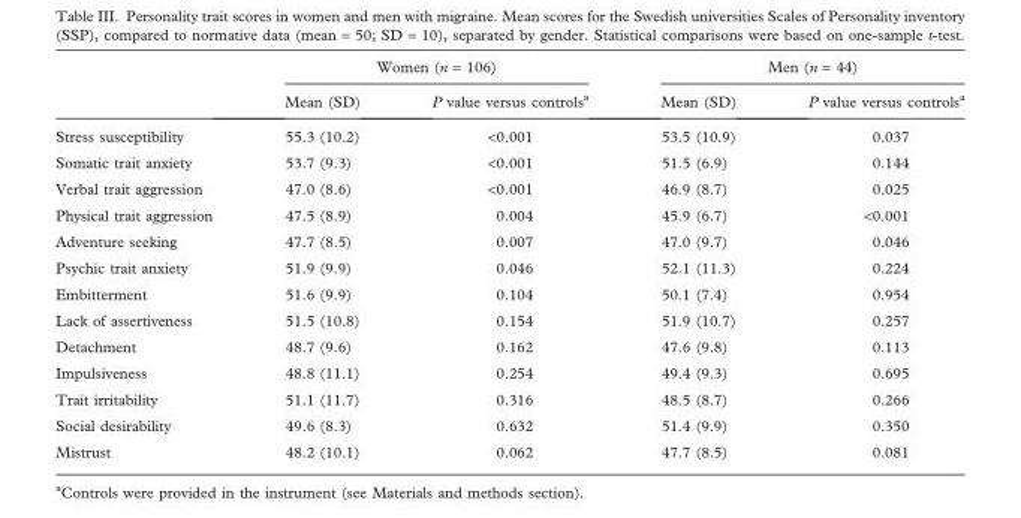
<table><thead><tr><td rowspan="2"></td><td colspan="2">Women (n = 106)</td><td colspan="2">Men (n = 44)</td></tr><tr><td>Mean (SD)</td><td>P value versus controls<sup>a</sup></td><td>Mean (SD)</td><td>P value versus controls<sup>a</sup></td></tr></thead><tbody><tr><td>Stress susceptibility</td><td>55.3 (10.2)</td><td>&lt;0.001</td><td>53.5 (10.9)</td><td>0.037</td></tr><tr><td>Somatic trait anxiety</td><td>53.7 (9.3)</td><td>&lt;0.001</td><td>51.5 (6.9)</td><td>0.144</td></tr><tr><td>Verbal trait aggression</td><td>47.0 (8.6)</td><td>&lt;0.001</td><td>46.9 (8.7)</td><td>0.025</td></tr><tr><td>Physical trait aggression</td><td>47.5 (8.9)</td><td>0.004</td><td>45.9 (6.7)</td><td>&lt;0.001</td></tr><tr><td>Adventure seeking</td><td>47.7 (8.5)</td><td>0.007</td><td>47.0 (9.7)</td><td>0.046</td></tr><tr><td>Psychic trait anxiety</td><td>51.9 (9.9)</td><td>0.046</td><td>52.1 (11.3)</td><td>0.224</td></tr><tr><td>Embitterment</td><td>51.6 (9.9)</td><td>0.104</td><td>50.1 (7.4)</td><td>0.954</td></tr><tr><td>Lack of assertiveness</td><td>51.5 (10.8)</td><td>0.154</td><td>51.9 (10.7)</td><td>0.257</td></tr><tr><td>Detachment</td><td>48.7 (9.6)</td><td>0.162</td><td>47.6 (9.8)</td><td>0.113</td></tr><tr><td>Impulsiveness</td><td>48.8 (11.1)</td><td>0.254</td><td>49.4 (9.3)</td><td>0.695</td></tr><tr><td>Trait irritability</td><td>51.1 (11.7)</td><td>0.316</td><td>48.5 (8.7)</td><td>0.266</td></tr><tr><td>Social desirability</td><td>49.6 (8.3)</td><td>0.632</td><td>51.4 (9.9)</td><td>0.350</td></tr><tr><td>Mistrust</td><td>48.2 (10.1)</td><td>0.062</td><td>47.7 (8.5)</td><td>0.081</td></tr></tbody></table>